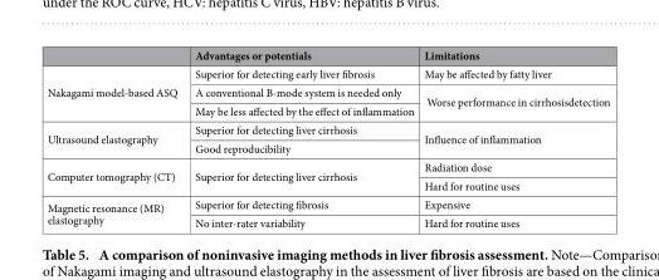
<table><thead><tr><td></td><td>Advantages or potentials</td><td>Limitations</td></tr></thead><tbody><tr><td rowspan="3">Nakagami model-based ASQ</td><td>Superior for detecting early liver fibrosis</td><td>May be affected by fatty liver</td></tr><tr><td>A conventional B-mode system is needed only</td><td rowspan="2">Worse performance in cirrhosisdetection</td></tr><tr><td>May be less affected by the effect of inflammation</td></tr><tr><td rowspan="2">Ultrasound elastography</td><td>Superior for detecting liver cirrhosis</td><td rowspan="2">Influence of inflammation</td></tr><tr><td>Good reproducibility</td></tr><tr><td rowspan="2">Computer tomography (CT)</td><td rowspan="2">Superior for detecting liver cirrhosis</td><td>Radiation dose</td></tr><tr><td>Hard for routine uses</td></tr><tr><td rowspan="2">Magnetic resonance (MR) elastography</td><td>Superior for detecting fibrosis</td><td>Expensive</td></tr><tr><td>No inter-rater variability</td><td>Hard for routine uses</td></tr></tbody></table>